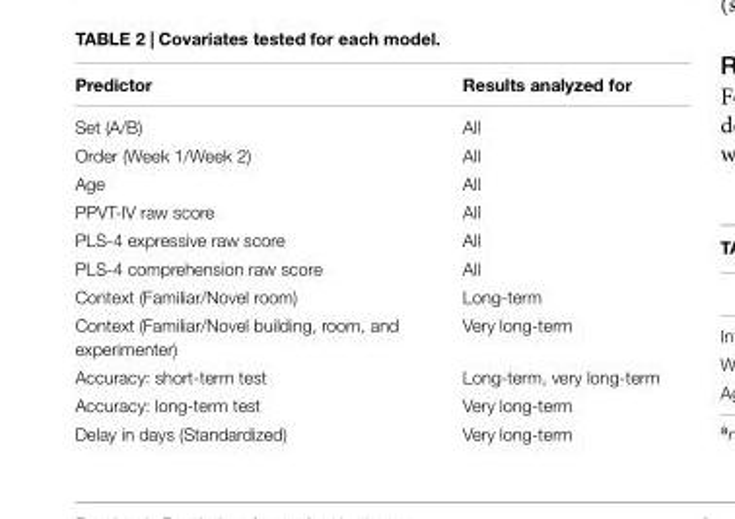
<table><thead><tr><td>Predictor</td><td>Results analyzed for</td></tr></thead><tbody><tr><td>Set (A/B)</td><td>All</td></tr><tr><td>Order (Week 1/Week 2)</td><td>All</td></tr><tr><td>Age</td><td>All</td></tr><tr><td>PPVT-IV raw score</td><td>All</td></tr><tr><td>PLS-4 expressive raw score</td><td>All</td></tr><tr><td>PLS-4 comprehension raw score</td><td>All</td></tr><tr><td>Context (Familiar/Novel room)</td><td>Long-term</td></tr><tr><td>Context (Familiar/Novel building, room, and experimenter)</td><td>Very long-term</td></tr><tr><td>Accuracy: short-term test</td><td>Long-term, very long-term</td></tr><tr><td>Accuracy: long-term test</td><td>Very long-term</td></tr><tr><td>Delay in days (Standardized)</td><td>Very long-term</td></tr></tbody></table>